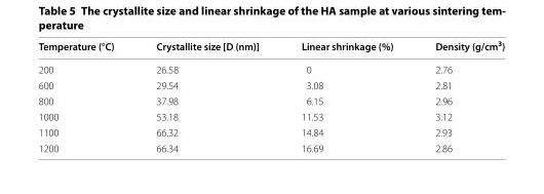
<table><thead><tr><td>Temperature (°C)</td><td>Crystallite size [D (nm)]</td><td>Linear shrinkage (%)</td><td>Density (g/cm<sup>3</sup>)</td></tr></thead><tbody><tr><td>200</td><td>26.58</td><td>0</td><td>2.76</td></tr><tr><td>600</td><td>29.54</td><td>3.08</td><td>2.81</td></tr><tr><td>800</td><td>37.98</td><td>6.15</td><td>2.96</td></tr><tr><td>1000</td><td>53.18</td><td>11.53</td><td>3.12</td></tr><tr><td>1100</td><td>66.32</td><td>14.84</td><td>2.93</td></tr><tr><td>1200</td><td>66.34</td><td>16.69</td><td>2.86</td></tr></tbody></table>